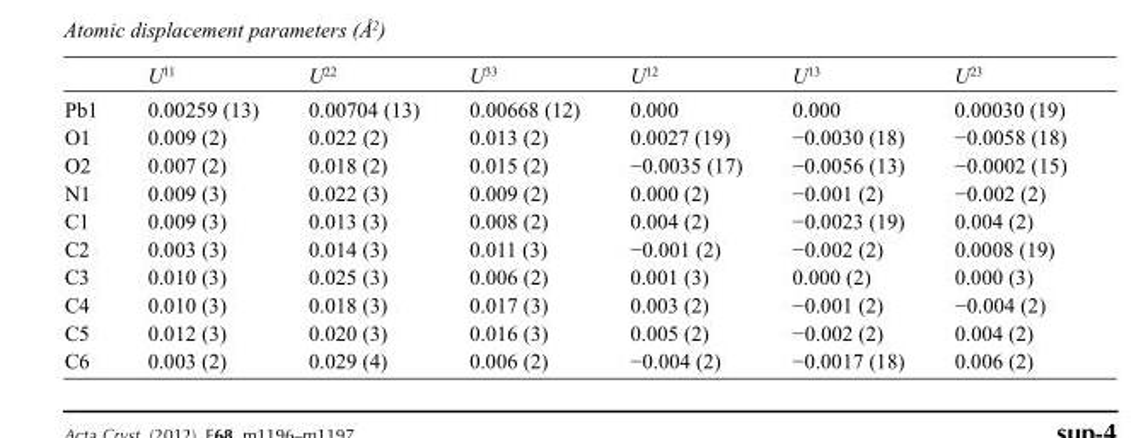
<table><thead><tr><td></td><td>U<sup>11</sup></td><td>U<sup>22</sup></td><td>U<sup>33</sup></td><td>U<sup>12</sup></td><td>U<sup>13</sup></td><td>U<sup>23</sup></td></tr></thead><tbody><tr><td>Pb1</td><td>0.00259 (13)</td><td>0.00704 (13)</td><td>0.00668 (12)</td><td>0.000</td><td>0.000</td><td>0.00030 (19)</td></tr><tr><td>O1</td><td>0.009 (2)</td><td>0.022 (2)</td><td>0.013 (2)</td><td>0.0027 (19)</td><td>−0.0030 (18)</td><td>−0.0058 (18)</td></tr><tr><td>O2</td><td>0.007 (2)</td><td>0.018 (2)</td><td>0.015 (2)</td><td>−0.0035 (17)</td><td>−0.0056 (13)</td><td>−0.0002 (15)</td></tr><tr><td>N1</td><td>0.009 (3)</td><td>0.022 (3)</td><td>0.009 (2)</td><td>0.000 (2)</td><td>−0.001 (2)</td><td>−0.002 (2)</td></tr><tr><td>C1</td><td>0.009 (3)</td><td>0.013 (3)</td><td>0.008 (2)</td><td>0.004 (2)</td><td>−0.0023 (19)</td><td>0.004 (2)</td></tr><tr><td>C2</td><td>0.003 (3)</td><td>0.014 (3)</td><td>0.011 (3)</td><td>−0.001 (2)</td><td>−0.002 (2)</td><td>0.0008 (19)</td></tr><tr><td>C3</td><td>0.010 (3)</td><td>0.025 (3)</td><td>0.006 (2)</td><td>0.001 (3)</td><td>0.000 (2)</td><td>0.000 (3)</td></tr><tr><td>C4</td><td>0.010 (3)</td><td>0.018 (3)</td><td>0.017 (3)</td><td>0.003 (2)</td><td>−0.001 (2)</td><td>−0.004 (2)</td></tr><tr><td>C5</td><td>0.012 (3)</td><td>0.020 (3)</td><td>0.016 (3)</td><td>0.005 (2)</td><td>−0.002 (2)</td><td>0.004 (2)</td></tr><tr><td>C6</td><td>0.003 (2)</td><td>0.029 (4)</td><td>0.006 (2)</td><td>−0.004 (2)</td><td>−0.0017 (18)</td><td>0.006 (2)</td></tr></tbody></table>